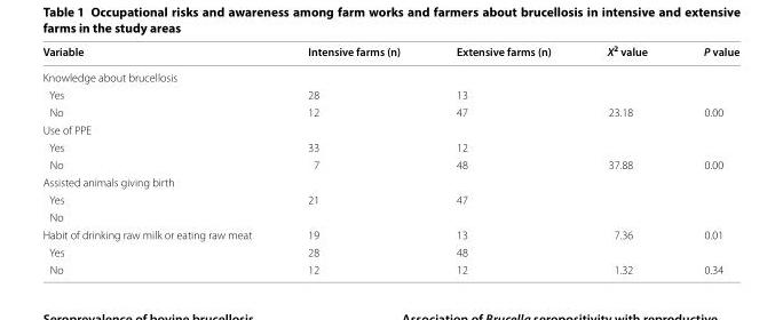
<table><thead><tr><td>Variable</td><td>Intensive farms (n)</td><td>Extensive farms (n)</td><td>X<sup>2</sup> value</td><td>P value</td></tr></thead><tbody><tr><td colspan="5">Knowledge about brucellosis</td></tr><tr><td>Yes</td><td>28</td><td>13</td><td></td><td></td></tr><tr><td>No</td><td>12</td><td>47</td><td>23.18</td><td>0.00</td></tr><tr><td colspan="5">Use of PPE</td></tr><tr><td>Yes</td><td>33</td><td>12</td><td></td><td></td></tr><tr><td>No</td><td>7</td><td>48</td><td>37.88</td><td>0.00</td></tr><tr><td colspan="5">Assisted animals giving birth</td></tr><tr><td>Yes</td><td>21</td><td>47</td><td></td><td></td></tr><tr><td colspan="5">No</td></tr><tr><td>Habit of drinking raw milk or eating raw meat</td><td>19</td><td>13</td><td>7.36</td><td>0.01</td></tr><tr><td>Yes</td><td>28</td><td>48</td><td></td><td></td></tr><tr><td>No</td><td>12</td><td>12</td><td>1.32</td><td>0.34</td></tr></tbody></table>